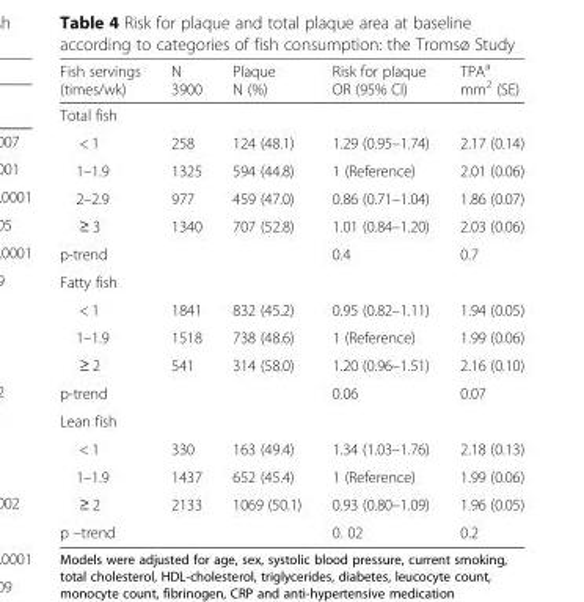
<table><thead><tr><td>Fish servings (times/wk)</td><td>N 3900</td><td>Plaque N (%)</td><td>Risk for plaque OR (95% CI)</td><td>TPA<sup>a</sup> mm<sup>2</sup> (SE)</td></tr></thead><tbody><tr><td colspan="5">Total fish</td></tr><tr><td>&lt; 1</td><td>258</td><td>124 (48.1)</td><td>1.29 (0.95–1.74)</td><td>2.17 (0.14)</td></tr><tr><td>1–1.9</td><td>1325</td><td>594 (44.8)</td><td>1 (Reference)</td><td>2.01 (0.06)</td></tr><tr><td>2–2.9</td><td>977</td><td>459 (47.0)</td><td>0.86 (0.71–1.04)</td><td>1.86 (0.07)</td></tr><tr><td>≥ 3</td><td>1340</td><td>707 (52.8)</td><td>1.01 (0.84–1.20)</td><td>2.03 (0.06)</td></tr><tr><td>p-trend</td><td></td><td></td><td>0.4</td><td>0.7</td></tr><tr><td colspan="5">Fatty fish</td></tr><tr><td>&lt; 1</td><td>1841</td><td>832 (45.2)</td><td>0.95 (0.82–1.11)</td><td>1.94 (0.05)</td></tr><tr><td>1–1.9</td><td>1518</td><td>738 (48.6)</td><td>1 (Reference)</td><td>1.99 (0.06)</td></tr><tr><td>≥ 2</td><td>541</td><td>314 (58.0)</td><td>1.20 (0.96–1.51)</td><td>2.16 (0.10)</td></tr><tr><td>p-trend</td><td></td><td></td><td>0.06</td><td>0.07</td></tr><tr><td colspan="5">Lean fish</td></tr><tr><td>&lt; 1</td><td>330</td><td>163 (49.4)</td><td>1.34 (1.03–1.76)</td><td>2.18 (0.13)</td></tr><tr><td>1–1.9</td><td>1437</td><td>652 (45.4)</td><td>1 (Reference)</td><td>1.99 (0.06)</td></tr><tr><td>≥ 2</td><td>2133</td><td>1069 (50.1)</td><td>0.93 (0.80–1.09)</td><td>1.96 (0.05)</td></tr><tr><td>p –trend</td><td></td><td></td><td>0. 02</td><td>0.2</td></tr></tbody></table>